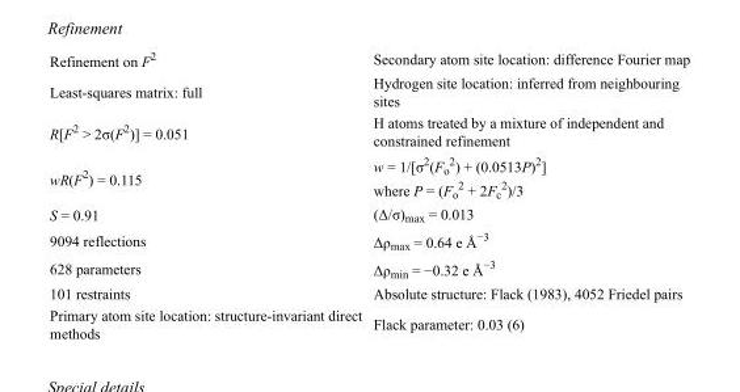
<table><tbody><tr><td>Refinement on F<sup>2</sup></td><td>Secondary atom site location: difference Fourier map</td></tr><tr><td>Least-squares matrix: full</td><td>Hydrogen site location: inferred from neighbouring sites</td></tr><tr><td>R[F<sup>2</sup> &gt; 2σ(F<sup>2</sup>)] = 0.051</td><td>H atoms treated by a mixture of independent and constrained refinement</td></tr><tr><td>wR(F<sup>2</sup>) = 0.115</td><td>w = 1/[σ<sup>2</sup>(F<sub>o</sub> <sup>2</sup>) + (0.0513P)<sup>2</sup>] where P = (F<sub>o</sub> <sup>2</sup> + 2F<sub>c</sub> <sup>2</sup>)/3</td></tr><tr><td>S = 0.91</td><td>(Δ/σ)<sub>max</sub> = 0.013</td></tr><tr><td>9094 reflections</td><td>Δρ<sub>max</sub> = 0.64 e Å<sup>−3</sup></td></tr><tr><td>628 parameters</td><td>Δρ<sub>min</sub> = −0.32 e Å<sup>−3</sup></td></tr><tr><td>101 restraints</td><td>Absolute structure: Flack (1983), 4052 Friedel pairs</td></tr><tr><td>Primary atom site location: structure-invariant direct methods</td><td>Flack parameter: 0.03 (6)</td></tr></tbody></table>